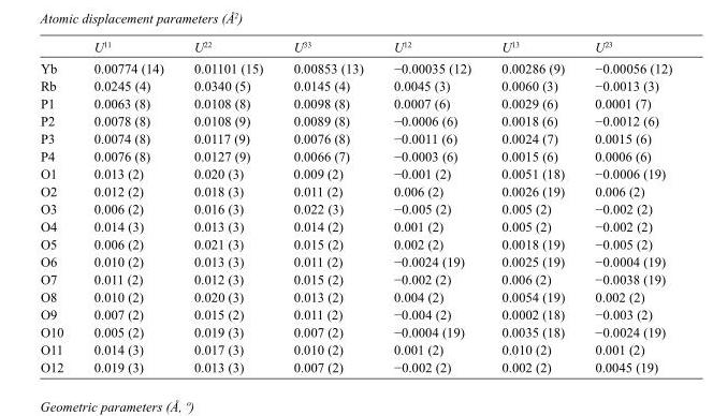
<table><thead><tr><td></td><td>U<sup>11</sup></td><td>U<sup>22</sup></td><td>U<sup>33</sup></td><td>U<sup>12</sup></td><td>U<sup>13</sup></td><td>U<sup>23</sup></td></tr></thead><tbody><tr><td>Yb</td><td>0.00774 (14)</td><td>0.01101 (15)</td><td>0.00853 (13)</td><td>−0.00035 (12)</td><td>0.00286 (9)</td><td>−0.00056 (12)</td></tr><tr><td>Rb</td><td>0.0245 (4)</td><td>0.0340 (5)</td><td>0.0145 (4)</td><td>0.0045 (3)</td><td>0.0060 (3)</td><td>−0.0013 (3)</td></tr><tr><td>P1</td><td>0.0063 (8)</td><td>0.0108 (8)</td><td>0.0098 (8)</td><td>0.0007 (6)</td><td>0.0029 (6)</td><td>0.0001 (7)</td></tr><tr><td>P2</td><td>0.0078 (8)</td><td>0.0108 (9)</td><td>0.0089 (8)</td><td>−0.0006 (6)</td><td>0.0018 (6)</td><td>−0.0012 (6)</td></tr><tr><td>P3</td><td>0.0074 (8)</td><td>0.0117 (9)</td><td>0.0076 (8)</td><td>−0.0011 (6)</td><td>0.0024 (7)</td><td>0.0015 (6)</td></tr><tr><td>P4</td><td>0.0076 (8)</td><td>0.0127 (9)</td><td>0.0066 (7)</td><td>−0.0003 (6)</td><td>0.0015 (6)</td><td>0.0006 (6)</td></tr><tr><td>O1</td><td>0.013 (2)</td><td>0.020 (3)</td><td>0.009 (2)</td><td>−0.001 (2)</td><td>0.0051 (18)</td><td>−0.0006 (19)</td></tr><tr><td>O2</td><td>0.012 (2)</td><td>0.018 (3)</td><td>0.011 (2)</td><td>0.006 (2)</td><td>0.0026 (19)</td><td>0.006 (2)</td></tr><tr><td>O3</td><td>0.006 (2)</td><td>0.016 (3)</td><td>0.022 (3)</td><td>−0.005 (2)</td><td>0.005 (2)</td><td>−0.002 (2)</td></tr><tr><td>O4</td><td>0.014 (3)</td><td>0.013 (3)</td><td>0.014 (2)</td><td>0.001 (2)</td><td>0.005 (2)</td><td>−0.002 (2)</td></tr><tr><td>O5</td><td>0.006 (2)</td><td>0.021 (3)</td><td>0.015 (2)</td><td>0.002 (2)</td><td>0.0018 (19)</td><td>−0.005 (2)</td></tr><tr><td>O6</td><td>0.010 (2)</td><td>0.013 (3)</td><td>0.011 (2)</td><td>−0.0024 (19)</td><td>0.0025 (19)</td><td>−0.0004 (19)</td></tr><tr><td>O7</td><td>0.011 (2)</td><td>0.012 (3)</td><td>0.015 (2)</td><td>−0.002 (2)</td><td>0.006 (2)</td><td>−0.0038 (19)</td></tr><tr><td>O8</td><td>0.010 (2)</td><td>0.020 (3)</td><td>0.013 (2)</td><td>0.004 (2)</td><td>0.0054 (19)</td><td>0.002 (2)</td></tr><tr><td>O9</td><td>0.007 (2)</td><td>0.015 (2)</td><td>0.011 (2)</td><td>−0.004 (2)</td><td>0.0002 (18)</td><td>−0.003 (2)</td></tr><tr><td>O10</td><td>0.005 (2)</td><td>0.019 (3)</td><td>0.007 (2)</td><td>−0.0004 (19)</td><td>0.0035 (18)</td><td>−0.0024 (19)</td></tr><tr><td>O11</td><td>0.014 (3)</td><td>0.017 (3)</td><td>0.010 (2)</td><td>0.001 (2)</td><td>0.010 (2)</td><td>0.001 (2)</td></tr><tr><td>O12</td><td>0.019 (3)</td><td>0.013 (3)</td><td>0.007 (2)</td><td>−0.002 (2)</td><td>0.002 (2)</td><td>0.0045 (19)</td></tr></tbody></table>